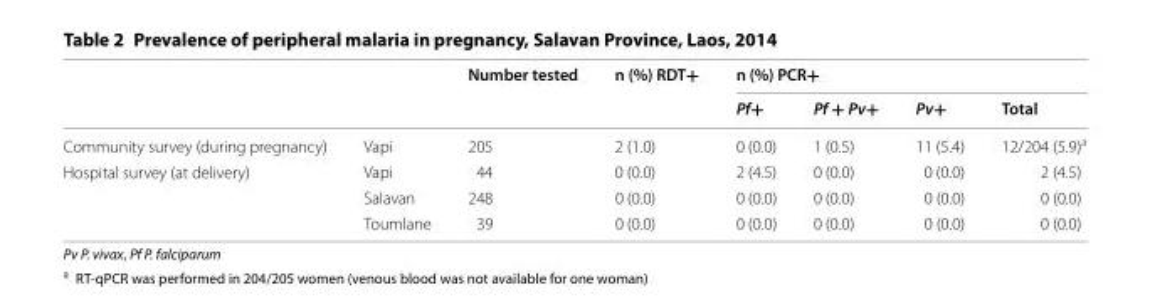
<table><thead><tr><td rowspan="2"></td><td rowspan="2"></td><td rowspan="2">Number tested</td><td rowspan="2">n (%) RDT+</td><td colspan="4">n (%) PCR+</td></tr><tr><td>Pf+</td><td>Pf + Pv+</td><td>Pv+</td><td>Total</td></tr></thead><tbody><tr><td>Community survey (during pregnancy)</td><td>Vapi</td><td>205</td><td>2 (1.0)</td><td>0 (0.0)</td><td>1 (0.5)</td><td>11 (5.4)</td><td>12/204 (5.9)<sup>a</sup></td></tr><tr><td rowspan="3">Hospital survey (at delivery)</td><td>Vapi</td><td>44</td><td>0 (0.0)</td><td>2 (4.5)</td><td>0 (0.0)</td><td>0 (0.0)</td><td>2 (4.5)</td></tr><tr><td>Salavan</td><td>248</td><td>0 (0.0)</td><td>0 (0.0)</td><td>0 (0.0)</td><td>0 (0.0)</td><td>0 (0.0)</td></tr><tr><td>Toumlane</td><td>39</td><td>0 (0.0)</td><td>0 (0.0)</td><td>0 (0.0)</td><td>0 (0.0)</td><td>0 (0.0)</td></tr></tbody></table>